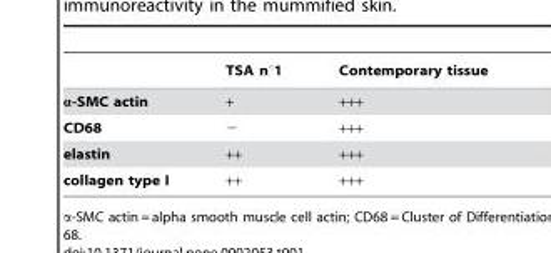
<table><thead><tr><td></td><td>TSA n°1</td><td>Contemporary tissue</td></tr></thead><tbody><tr><td>α-SMC actin</td><td>+</td><td>+++</td></tr><tr><td>CD68</td><td>−</td><td>+++</td></tr><tr><td>elastin</td><td>++</td><td>+++</td></tr><tr><td>collagen type I</td><td>++</td><td>+++</td></tr></tbody></table>